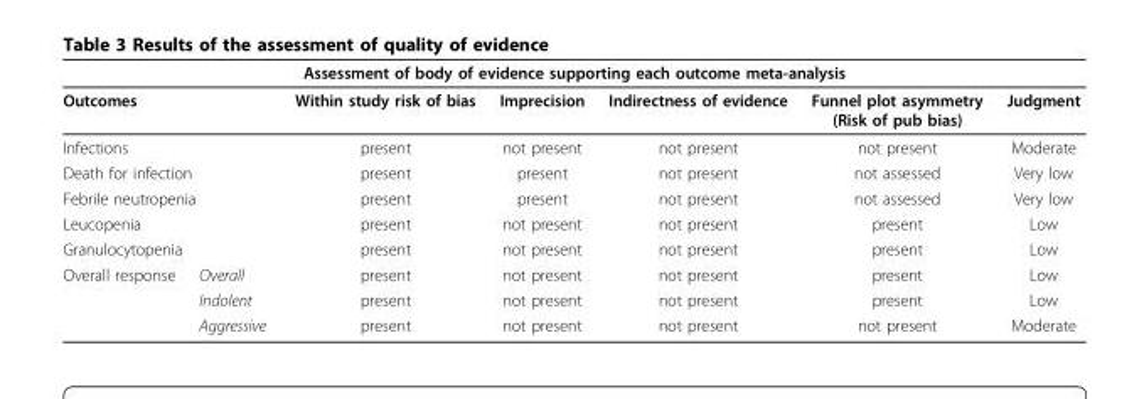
<table><thead><tr><td colspan="7">Assessment of body of evidence supporting each outcome meta-analysis</td></tr></thead><tbody><tr><td colspan="2">Outcomes</td><td>Within study risk of bias</td><td>Imprecision</td><td>Indirectness of evidence</td><td>Funnel plot asymmetry (Risk of pub bias)</td><td>Judgment</td></tr><tr><td colspan="2">Infections</td><td>present</td><td>not present</td><td>not present</td><td>not present</td><td>Moderate</td></tr><tr><td colspan="2">Death for infection</td><td>present</td><td>present</td><td>not present</td><td>not assessed</td><td>Very low</td></tr><tr><td colspan="2">Febrile neutropenia</td><td>present</td><td>present</td><td>not present</td><td>not assessed</td><td>Very low</td></tr><tr><td colspan="2">Leucopenia</td><td>present</td><td>not present</td><td>not present</td><td>present</td><td>Low</td></tr><tr><td colspan="2">Granulocytopenia</td><td>present</td><td>not present</td><td>not present</td><td>present</td><td>Low</td></tr><tr><td rowspan="3">Overall response</td><td>Overall</td><td>present</td><td>not present</td><td>not present</td><td>present</td><td>Low</td></tr><tr><td>Indolent</td><td>present</td><td>not present</td><td>not present</td><td>present</td><td>Low</td></tr><tr><td>Aggressive</td><td>present</td><td>not present</td><td>not present</td><td>not present</td><td>Moderate</td></tr></tbody></table>